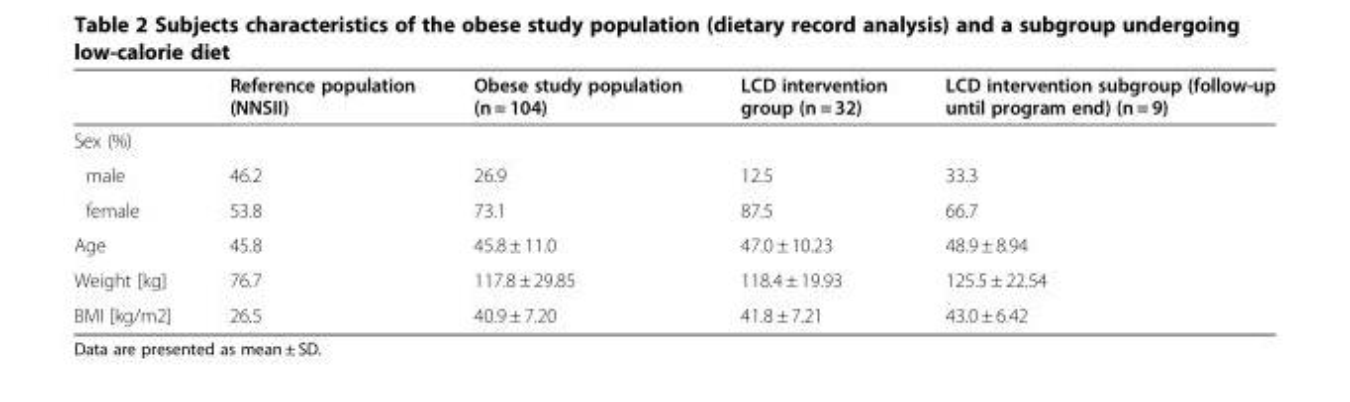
<table><thead><tr><td></td><td>Reference population (NNSII)</td><td>Obese study population (n = 104)</td><td>LCD intervention group (n = 32)</td><td>LCD intervention subgroup (follow-up until program end) (n = 9)</td></tr></thead><tbody><tr><td colspan="5">Sex (%)</td></tr><tr><td>male</td><td>46.2</td><td>26.9</td><td>12.5</td><td>33.3</td></tr><tr><td>female</td><td>53.8</td><td>73.1</td><td>87.5</td><td>66.7</td></tr><tr><td>Age</td><td>45.8</td><td>45.8 ± 11.0</td><td>47.0 ± 10.23</td><td>48.9 ± 8.94</td></tr><tr><td>Weight [kg]</td><td>76.7</td><td>117.8 ± 29.85</td><td>118.4 ± 19.93</td><td>125.5 ± 22.54</td></tr><tr><td>BMI [kg/m2]</td><td>26.5</td><td>40.9 ± 7.20</td><td>41.8 ± 7.21</td><td>43.0 ± 6.42</td></tr></tbody></table>